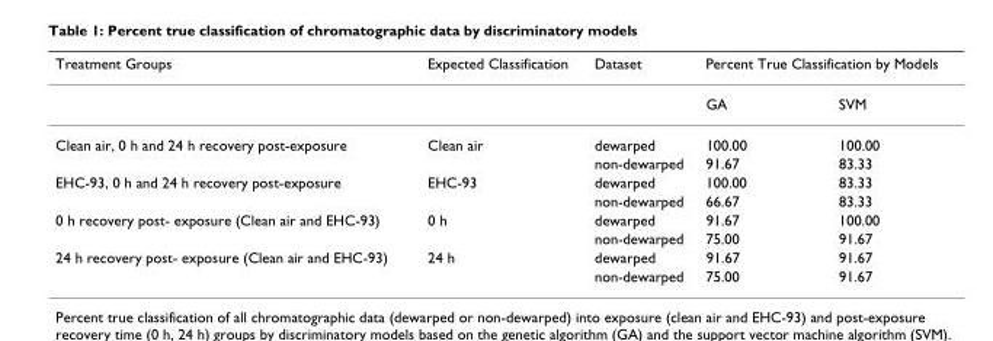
<table><thead><tr><td rowspan="2">Treatment Groups</td><td rowspan="2">Expected Classification</td><td rowspan="2">Dataset</td><td colspan="2">Percent True Classification by Models</td></tr><tr><td>GA</td><td>SVM</td></tr></thead><tbody><tr><td rowspan="2">Clean air, 0 h and 24 h recovery post-exposure</td><td>Clean air</td><td>dewarped</td><td>100.00</td><td>100.00</td></tr><tr><td></td><td>non-dewarped</td><td>91.67</td><td>83.33</td></tr><tr><td rowspan="2">EHC-93, 0 h and 24 h recovery post-exposure</td><td>EHC-93</td><td>dewarped</td><td>100.00</td><td>83.33</td></tr><tr><td></td><td>non-dewarped</td><td>66.67</td><td>83.33</td></tr><tr><td rowspan="2">0 h recovery post- exposure (Clean air and EHC-93)</td><td>0 h</td><td>dewarped</td><td>91.67</td><td>100.00</td></tr><tr><td></td><td>non-dewarped</td><td>75.00</td><td>91.67</td></tr><tr><td rowspan="2">24 h recovery post- exposure (Clean air and EHC-93)</td><td>24 h</td><td>dewarped</td><td>91.67</td><td>91.67</td></tr><tr><td></td><td>non-dewarped</td><td>75.00</td><td>91.67</td></tr></tbody></table>